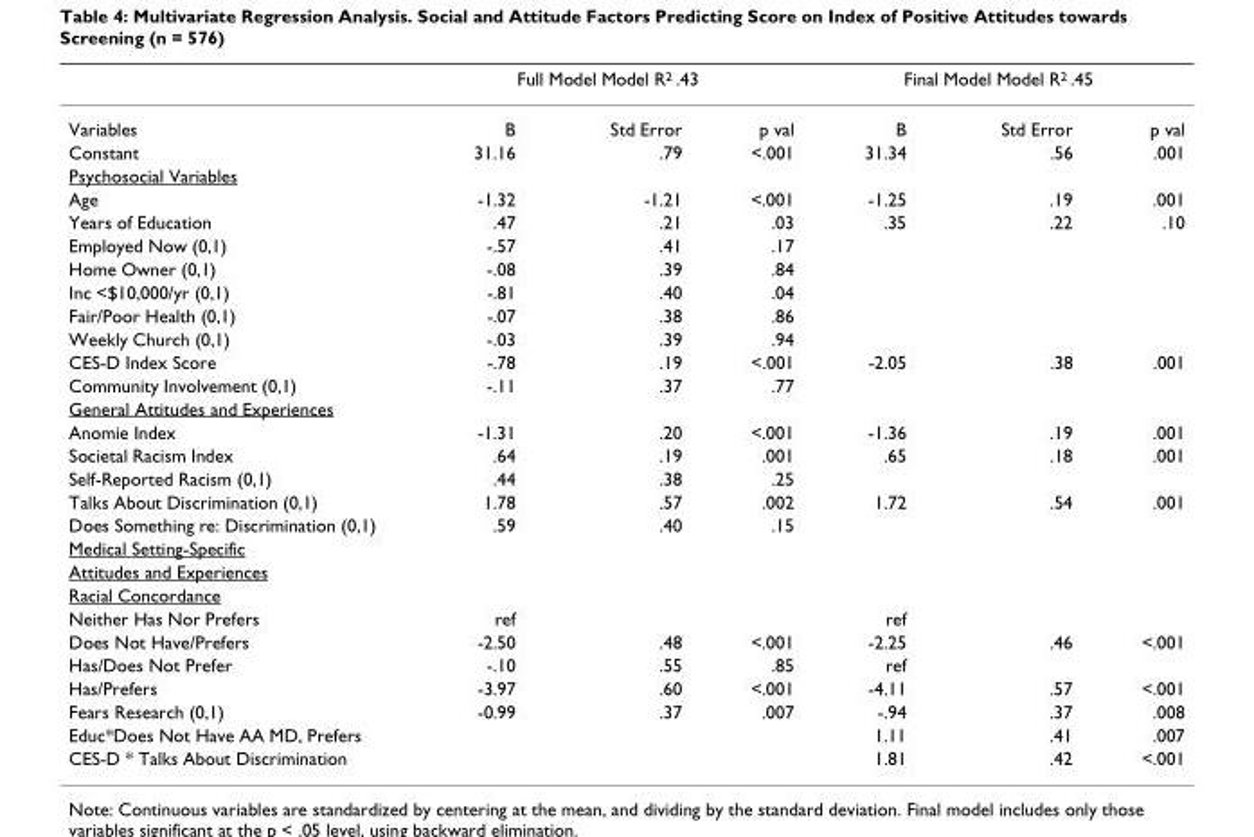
<table><thead><tr><td rowspan="2">Variables</td><td colspan="3">Full Model Model R<sup>2</sup> .43</td><td colspan="3">Final Model Model R<sup>2</sup> .45</td></tr><tr><td>B</td><td>Std Error</td><td>p val</td><td>B</td><td>Std Error</td><td>p val</td></tr></thead><tbody><tr><td>Constant</td><td>31.16</td><td>.79</td><td>&lt;.001</td><td>31.34</td><td>.56</td><td>.001</td></tr><tr><td colspan="7">Psychosocial Variables</td></tr><tr><td>Age</td><td>-1.32</td><td>-1.21</td><td>&lt;.001</td><td>-1.25</td><td>.19</td><td>.001</td></tr><tr><td>Years of Education</td><td>.47</td><td>.21</td><td>.03</td><td>.35</td><td>.22</td><td>.10</td></tr><tr><td>Employed Now (0,1)</td><td>-.57</td><td>.41</td><td>.17</td><td></td><td></td><td></td></tr><tr><td>Home Owner (0,1)</td><td>-.08</td><td>.39</td><td>.84</td><td></td><td></td><td></td></tr><tr><td>Inc &lt;$10,000/yr (0,1)</td><td>-.81</td><td>.40</td><td>.04</td><td></td><td></td><td></td></tr><tr><td>Fair/Poor Health (0,1)</td><td>-.07</td><td>.38</td><td>.86</td><td></td><td></td><td></td></tr><tr><td>Weekly Church (0,1)</td><td>-.03</td><td>.39</td><td>.94</td><td></td><td></td><td></td></tr><tr><td>CES-D Index Score</td><td>-.78</td><td>.19</td><td>&lt;.001</td><td>-2.05</td><td>.38</td><td>.001</td></tr><tr><td>Community Involvement (0,1)</td><td>-.11</td><td>.37</td><td>.77</td><td></td><td></td><td></td></tr><tr><td colspan="7">General Attitudes and Experiences</td></tr><tr><td>Anomie Index</td><td>-1.31</td><td>.20</td><td>&lt;.001</td><td>-1.36</td><td>.19</td><td>.001</td></tr><tr><td>Societal Racism Index</td><td>.64</td><td>.19</td><td>.001</td><td>.65</td><td>.18</td><td>.001</td></tr><tr><td>Self-Reported Racism (0,1)</td><td>.44</td><td>.38</td><td>.25</td><td></td><td></td><td></td></tr><tr><td>Talks About Discrimination (0,1)</td><td>1.78</td><td>.57</td><td>.002</td><td>1.72</td><td>.54</td><td>.001</td></tr><tr><td>Does Something re: Discrimination (0,1)</td><td>.59</td><td>.40</td><td>.15</td><td></td><td></td><td></td></tr><tr><td colspan="7">Medical Setting-Specific</td></tr><tr><td colspan="7">Attitudes and Experiences</td></tr><tr><td colspan="7">Racial Concordance</td></tr><tr><td>Neither Has Nor Prefers</td><td>ref</td><td></td><td></td><td>ref</td><td></td><td></td></tr><tr><td>Does Not Have/Prefers</td><td>-2.50</td><td>.48</td><td>&lt;.001</td><td>-2.25</td><td>.46</td><td>&lt;.001</td></tr><tr><td>Has/Does Not Prefer</td><td>-.10</td><td>.55</td><td>.85</td><td>ref</td><td></td><td></td></tr><tr><td>Has/Prefers</td><td>-3.97</td><td>.60</td><td>&lt;.001</td><td>-4.11</td><td>.57</td><td>&lt;.001</td></tr><tr><td>Fears Research (0,1)</td><td>-0.99</td><td>.37</td><td>.007</td><td>-.94</td><td>.37</td><td>.008</td></tr><tr><td>Educ*Does Not Have AA MD, Prefers</td><td></td><td></td><td></td><td>1.11</td><td>.41</td><td>.007</td></tr><tr><td>CES-D * Talks About Discrimination</td><td></td><td></td><td></td><td>1.81</td><td>.42</td><td>&lt;.001</td></tr></tbody></table>